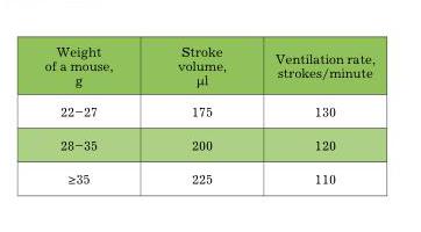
<table><thead><tr><td>Weight of a mouse, g</td><td>Stroke volume, µl</td><td>Ventilation rate, strokes/minute</td></tr></thead><tbody><tr><td>22–27</td><td>175</td><td>130</td></tr><tr><td>28–35</td><td>200</td><td>120</td></tr><tr><td>≥35</td><td>225</td><td>110</td></tr></tbody></table>